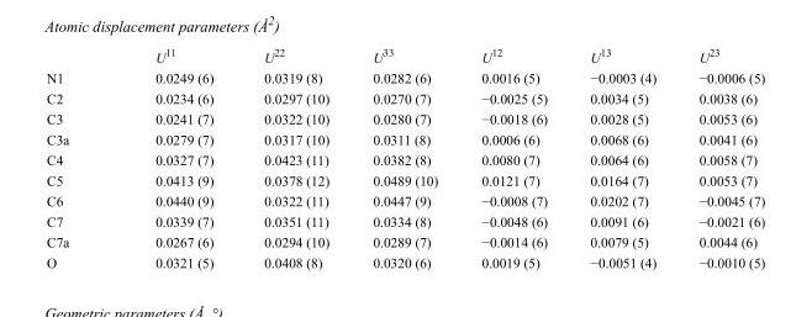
<table><thead><tr><td></td><td>U<sup>11</sup></td><td>U<sup>22</sup></td><td>U<sup>33</sup></td><td>U<sup>12</sup></td><td>U<sup>13</sup></td><td>U<sup>23</sup></td></tr></thead><tbody><tr><td>N1</td><td>0.0249 (6)</td><td>0.0319 (8)</td><td>0.0282 (6)</td><td>0.0016 (5)</td><td>−0.0003 (4)</td><td>−0.0006 (5)</td></tr><tr><td>C2</td><td>0.0234 (6)</td><td>0.0297 (10)</td><td>0.0270 (7)</td><td>−0.0025 (5)</td><td>0.0034 (5)</td><td>0.0038 (6)</td></tr><tr><td>C3</td><td>0.0241 (7)</td><td>0.0322 (10)</td><td>0.0280 (7)</td><td>−0.0018 (6)</td><td>0.0028 (5)</td><td>0.0053 (6)</td></tr><tr><td>C3a</td><td>0.0279 (7)</td><td>0.0317 (10)</td><td>0.0311 (8)</td><td>0.0006 (6)</td><td>0.0068 (6)</td><td>0.0041 (6)</td></tr><tr><td>C4</td><td>0.0327 (7)</td><td>0.0423 (11)</td><td>0.0382 (8)</td><td>0.0080 (7)</td><td>0.0064 (6)</td><td>0.0058 (7)</td></tr><tr><td>C5</td><td>0.0413 (9)</td><td>0.0378 (12)</td><td>0.0489 (10)</td><td>0.0121 (7)</td><td>0.0164 (7)</td><td>0.0053 (7)</td></tr><tr><td>C6</td><td>0.0440 (9)</td><td>0.0322 (11)</td><td>0.0447 (9)</td><td>−0.0008 (7)</td><td>0.0202 (7)</td><td>−0.0045 (7)</td></tr><tr><td>C7</td><td>0.0339 (7)</td><td>0.0351 (11)</td><td>0.0334 (8)</td><td>−0.0048 (6)</td><td>0.0091 (6)</td><td>−0.0021 (6)</td></tr><tr><td>C7a</td><td>0.0267 (6)</td><td>0.0294 (10)</td><td>0.0289 (7)</td><td>−0.0014 (6)</td><td>0.0079 (5)</td><td>0.0044 (6)</td></tr><tr><td>O</td><td>0.0321 (5)</td><td>0.0408 (8)</td><td>0.0320 (6)</td><td>0.0019 (5)</td><td>−0.0051 (4)</td><td>−0.0010 (5)</td></tr></tbody></table>